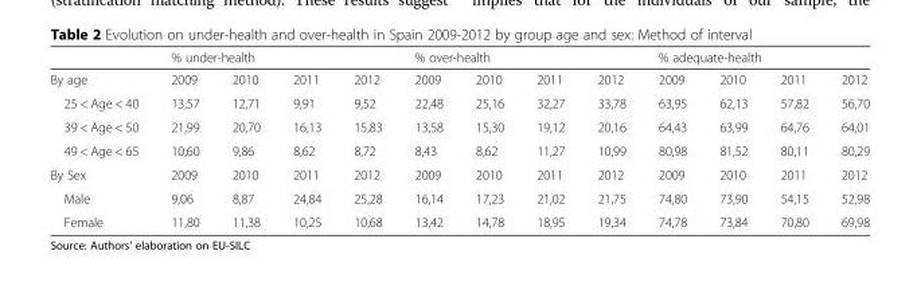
<table><thead><tr><td rowspan="2">By age</td><td colspan="4">% under-health</td><td colspan="4">% over-health</td><td colspan="4">% adequate-health</td></tr><tr><td>2009</td><td>2010</td><td>2011</td><td>2012</td><td>2009</td><td>2010</td><td>2011</td><td>2012</td><td>2009</td><td>2010</td><td>2011</td><td>2012</td></tr></thead><tbody><tr><td>25 &lt; Age &lt; 40</td><td>13,57</td><td>12,71</td><td>9,91</td><td>9,52</td><td>22,48</td><td>25,16</td><td>32,27</td><td>33,78</td><td>63,95</td><td>62,13</td><td>57,82</td><td>56,70</td></tr><tr><td>39 &lt; Age &lt; 50</td><td>21,99</td><td>20,70</td><td>16,13</td><td>15,83</td><td>13,58</td><td>15,30</td><td>19,12</td><td>20,16</td><td>64,43</td><td>63,99</td><td>64,76</td><td>64,01</td></tr><tr><td>49 &lt; Age &lt; 65</td><td>10,60</td><td>9,86</td><td>8,62</td><td>8,72</td><td>8,43</td><td>8,62</td><td>11,27</td><td>10,99</td><td>80,98</td><td>81,52</td><td>80,11</td><td>80,29</td></tr><tr><td>By Sex</td><td>2009</td><td>2010</td><td>2011</td><td>2012</td><td>2009</td><td>2010</td><td>2011</td><td>2012</td><td>2009</td><td>2010</td><td>2011</td><td>2012</td></tr><tr><td>Male</td><td>9,06</td><td>8,87</td><td>24,84</td><td>25,28</td><td>16,14</td><td>17,23</td><td>21,02</td><td>21,75</td><td>74,80</td><td>73,90</td><td>54,15</td><td>52,98</td></tr><tr><td>Female</td><td>11,80</td><td>11,38</td><td>10,25</td><td>10,68</td><td>13,42</td><td>14,78</td><td>18,95</td><td>19,34</td><td>74,78</td><td>73,84</td><td>70,80</td><td>69,98</td></tr></tbody></table>